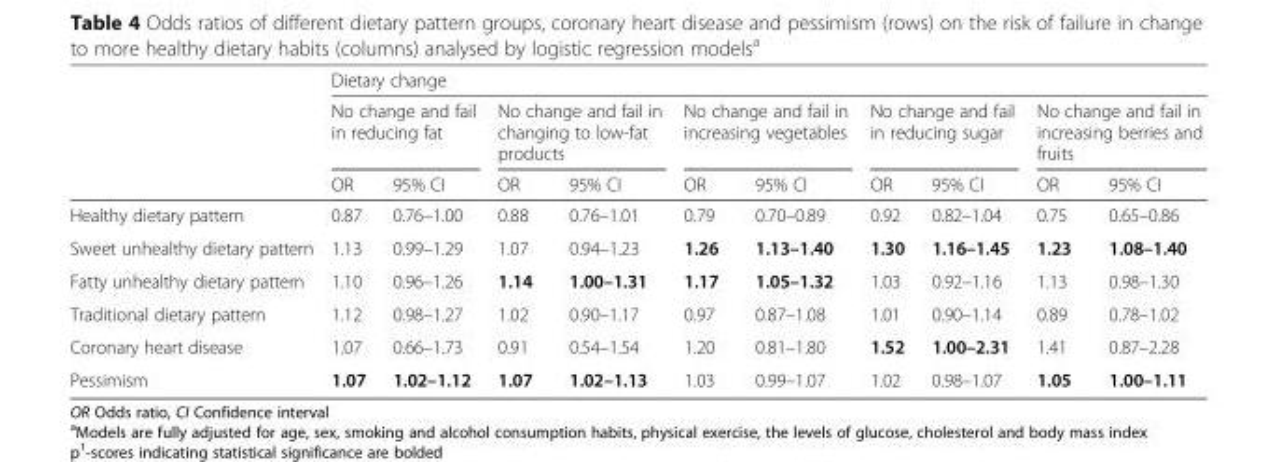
<table><thead><tr><td rowspan="3"></td><td colspan="10">Dietary change</td></tr><tr><td colspan="2">No change and fail in reducing fat</td><td colspan="2">No change and fail in changing to low-fat products</td><td colspan="2">No change and fail in increasing vegetables</td><td colspan="2">No change and fail in reducing sugar</td><td colspan="2">No change and fail in increasing berries and fruits</td></tr><tr><td>OR</td><td>95% CI</td><td>OR</td><td>95% CI</td><td>OR</td><td>95% CI</td><td>OR</td><td>95% CI</td><td>OR</td><td>95% CI</td></tr></thead><tbody><tr><td>Healthy dietary pattern</td><td>0.87</td><td>0.76–1.00</td><td>0.88</td><td>0.76–1.01</td><td>0.79</td><td>0.70–0.89</td><td>0.92</td><td>0.82–1.04</td><td>0.75</td><td>0.65–0.86</td></tr><tr><td>Sweet unhealthy dietary pattern</td><td>1.13</td><td>0.99–1.29</td><td>1.07</td><td>0.94–1.23</td><td>1.26</td><td>1.13–1.40</td><td>1.30</td><td>1.16–1.45</td><td>1.23</td><td>1.08–1.40</td></tr><tr><td>Fatty unhealthy dietary pattern</td><td>1.10</td><td>0.96–1.26</td><td>1.14</td><td>1.00–1.31</td><td>1.17</td><td>1.05–1.32</td><td>1.03</td><td>0.92–1.16</td><td>1.13</td><td>0.98–1.30</td></tr><tr><td>Traditional dietary pattern</td><td>1.12</td><td>0.98–1.27</td><td>1.02</td><td>0.90–1.17</td><td>0.97</td><td>0.87–1.08</td><td>1.01</td><td>0.90–1.14</td><td>0.89</td><td>0.78–1.02</td></tr><tr><td>Coronary heart disease</td><td>1.07</td><td>0.66–1.73</td><td>0.91</td><td>0.54–1.54</td><td>1.20</td><td>0.81–1.80</td><td>1.52</td><td>1.00–2.31</td><td>1.41</td><td>0.87–2.28</td></tr><tr><td>Pessimism</td><td>1.07</td><td>1.02–1.12</td><td>1.07</td><td>1.02–1.13</td><td>1.03</td><td>0.99–1.07</td><td>1.02</td><td>0.98–1.07</td><td>1.05</td><td>1.00–1.11</td></tr></tbody></table>